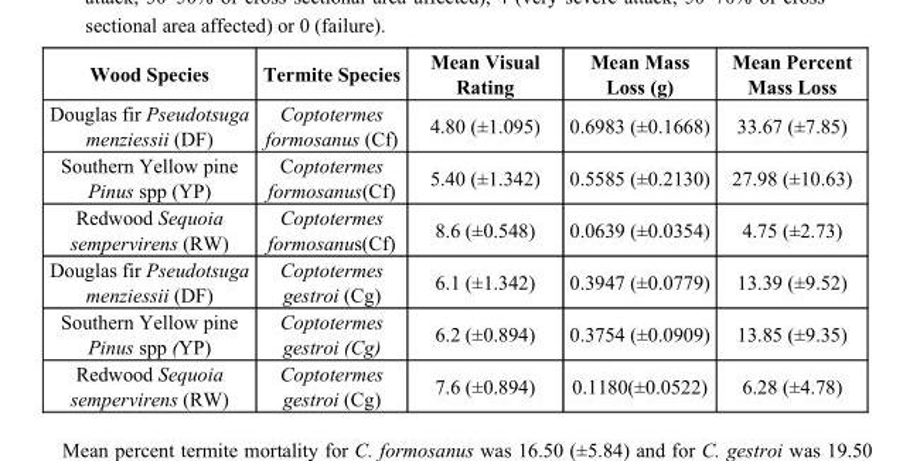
<table><thead><tr><td>Wood Species</td><td>Termite Species</td><td>Mean Visual Rating</td><td>Mean Mass Loss (g)</td><td>Mean Percent Mass Loss</td></tr></thead><tbody><tr><td>Douglas fir Pseudotsuga menziessii (DF)</td><td>Coptotermes formosanus (Cf)</td><td>4.80 (±1.095)</td><td>0.6983 (±0.1668)</td><td>33.67 (±7.85)</td></tr><tr><td>Southern Yellow pine Pinus spp (YP)</td><td>Coptotermes formosanus(Cf)</td><td>5.40 (±1.342)</td><td>0.5585 (±0.2130)</td><td>27.98 (±10.63)</td></tr><tr><td>Redwood Sequoia sempervirens (RW)</td><td>Coptotermes formosanus(Cf)</td><td>8.6 (±0.548)</td><td>0.0639 (±0.0354)</td><td>4.75 (±2.73)</td></tr><tr><td>Douglas fir Pseudotsuga menziessii (DF)</td><td>Coptotermes gestroi (Cg)</td><td>6.1 (±1.342)</td><td>0.3947 (±0.0779)</td><td>13.39 (±9.52)</td></tr><tr><td>Southern Yellow pine Pinus spp (YP)</td><td>Coptotermes gestroi (Cg)</td><td>6.2 (±0.894)</td><td>0.3754 (±0.0909)</td><td>13.85 (±9.35)</td></tr><tr><td>Redwood Sequoia sempervirens (RW)</td><td>Coptotermes gestroi (Cg)</td><td>7.6 (±0.894)</td><td>0.1180(±0.0522)</td><td>6.28 (±4.78)</td></tr></tbody></table>